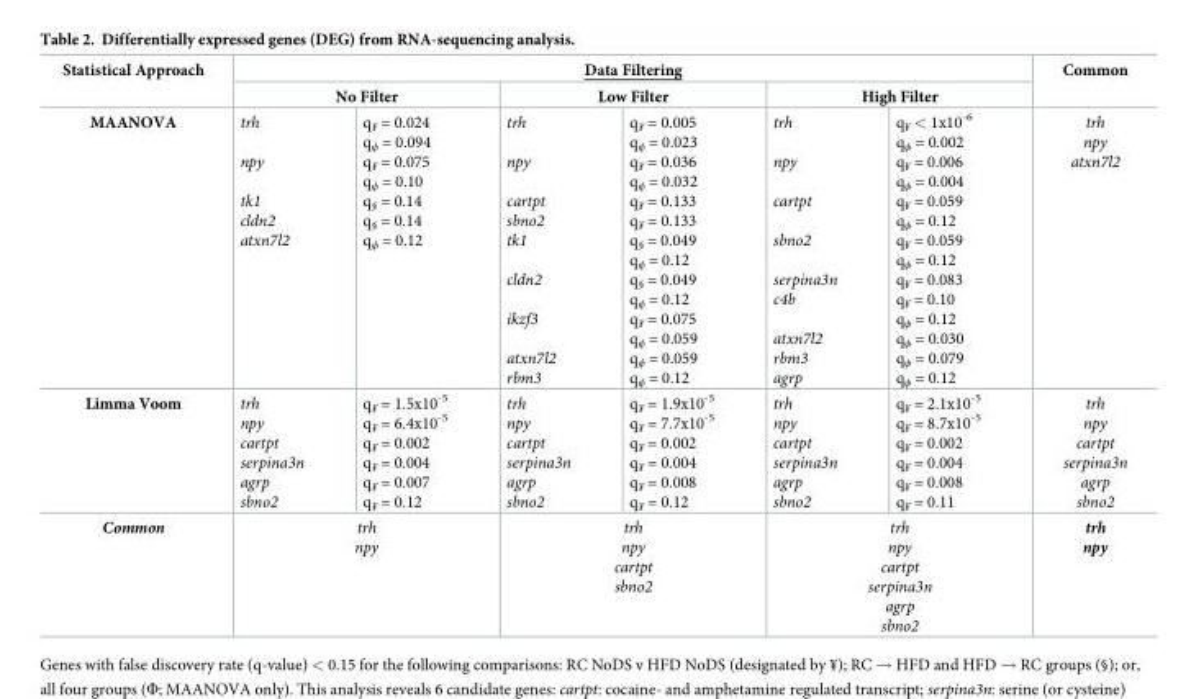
<table><thead><tr><td rowspan="3">Statistical Approach MAANOVA</td><td colspan="6">Data Filtering</td><td rowspan="3">Common trh npy atxn7l2</td></tr><tr><td colspan="2">No Filter</td><td colspan="2">Low Filter</td><td colspan="2">High Filter</td></tr><tr><td>trh npy tk1 cldn2 atxn7l2</td><td>q<sub>¥</sub> = 0.024 q<sub>ϕ</sub> = 0.094 q<sub>¥</sub> = 0.075 q<sub>ϕ</sub> = 0.10 q<sub>§</sub> = 0.14 q<sub>§</sub> = 0.14 q<sub>ϕ</sub> = 0.12</td><td>trh npy cartpt sbno2 tk1 cldn2 ikzf3 atxn7l2 rbm3</td><td>q<sub>¥</sub> = 0.005 q<sub>ϕ</sub> = 0.023 q<sub>¥</sub> = 0.036 q<sub>ϕ</sub> = 0.032 q<sub>¥</sub> = 0.133 q<sub>¥</sub> = 0.133 q<sub>§</sub> = 0.049 q<sub>ϕ</sub> = 0.12 q<sub>§</sub> = 0.049 q<sub>ϕ</sub> = 0.12 q<sub>¥</sub> = 0.075 q<sub>ϕ</sub> = 0.059 q<sub>ϕ</sub> = 0.059 q<sub>ϕ</sub> = 0.12</td><td>trh npy cartpt sbno2 serpina3n c4b atxn7l2 rbm3 agrp</td><td>q<sub>¥</sub> &lt; 1x10<sup>-6</sup> q<sub>ϕ</sub> = 0.002 q<sub>¥</sub> = 0.006 q<sub>ϕ</sub> = 0.004 q<sub>¥</sub> = 0.059 q<sub>ϕ</sub> = 0.12 q<sub>¥</sub> = 0.059 q<sub>ϕ</sub> = 0.12 q<sub>¥</sub> = 0.083 q<sub>¥</sub> = 0.10 q<sub>ϕ</sub> = 0.12 q<sub>ϕ</sub> = 0.030 q<sub>ϕ</sub> = 0.079 q<sub>ϕ</sub> = 0.12</td></tr></thead><tbody><tr><td>Limma Voom</td><td>trh npy cartpt serpina3n agrp sbno2</td><td>q<sub>¥</sub> = 1.5x10<sup>-5</sup> q<sub>¥</sub> = 6.4x10<sup>-5</sup> q<sub>¥</sub> = 0.002 q<sub>¥</sub> = 0.004 q<sub>¥</sub> = 0.007 q<sub>¥</sub> = 0.12</td><td>trh npy cartpt serpina3n agrp sbno2</td><td>q<sub>¥</sub> = 1.9x10<sup>-5</sup> q<sub>¥</sub> = 7.7x10<sup>-5</sup> q<sub>¥</sub> = 0.002 q<sub>¥</sub> = 0.004 q<sub>¥</sub> = 0.008 q<sub>¥</sub> = 0.12</td><td>trh npy cartpt serpina3n agrp sbno2</td><td>q<sub>¥</sub> = 2.1x10<sup>-5</sup> q<sub>¥</sub> = 8.7x10<sup>-5</sup> q<sub>¥</sub> = 0.002 q<sub>¥</sub> = 0.004 q<sub>¥</sub> = 0.008 q<sub>¥</sub> = 0.11</td><td>trh npy cartpt serpina3n agrp sbno2</td></tr><tr><td>Common</td><td colspan="2">trh npy</td><td colspan="2">trh npy cartpt sbno2</td><td colspan="2">trh npy cartpt serpina3n agrp sbno2</td><td>trh npy</td></tr></tbody></table>